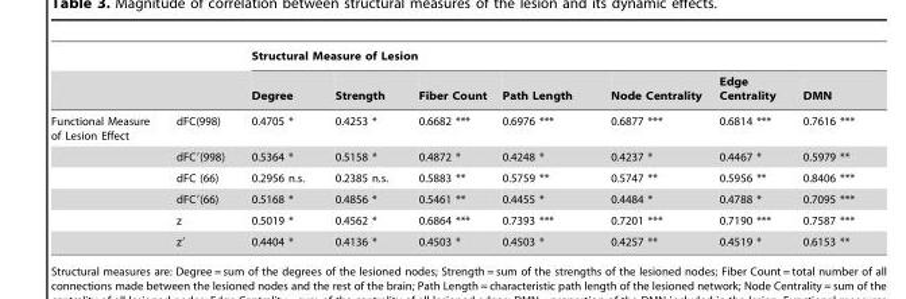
<table><thead><tr><td rowspan="2"></td><td rowspan="2"></td><td colspan="7">Structural Measure of Lesion</td></tr><tr><td>Degree</td><td>Strength</td><td>Fiber Count</td><td>Path Length</td><td>Node Centrality</td><td>Edge Centrality</td><td>DMN</td></tr></thead><tbody><tr><td rowspan="6">Functional Measure of Lesion Effect</td><td>dFC(998)</td><td>0.4705 *</td><td>0.4253 *</td><td>0.6682 ***</td><td>0.6976 ***</td><td>0.6877 ***</td><td>0.6814 ***</td><td>0.7616 ***</td></tr><tr><td>dFC′(998)</td><td>0.5364 *</td><td>0.5158 *</td><td>0.4872 *</td><td>0.4248 *</td><td>0.4237 *</td><td>0.4467 *</td><td>0.5979 **</td></tr><tr><td>dFC (66)</td><td>0.2956 n.s.</td><td>0.2385 n.s.</td><td>0.5883 **</td><td>0.5759 **</td><td>0.5747 **</td><td>0.5956 **</td><td>0.8406 ***</td></tr><tr><td>dFC′(66)</td><td>0.5168 *</td><td>0.4856 *</td><td>0.5461 **</td><td>0.4455 *</td><td>0.4484 *</td><td>0.4788 *</td><td>0.7095 ***</td></tr><tr><td>z</td><td>0.5019 *</td><td>0.4562 *</td><td>0.6864 ***</td><td>0.7393 ***</td><td>0.7201 ***</td><td>0.7190 ***</td><td>0.7587 ***</td></tr><tr><td>z′</td><td>0.4404 *</td><td>0.4136 *</td><td>0.4503 *</td><td>0.4503 *</td><td>0.4257 **</td><td>0.4519 *</td><td>0.6153 **</td></tr></tbody></table>